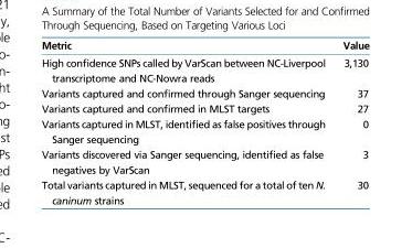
<table><thead><tr><td>Metric</td><td>Value</td></tr></thead><tbody><tr><td>High confidence SNPs called by VarScan between NC-Liverpool transcriptome and NC-Nowra reads</td><td>3,130</td></tr><tr><td>Variants captured and confirmed through Sanger sequencing</td><td>37</td></tr><tr><td>Variants captured and confirmed in MLST targets</td><td>27</td></tr><tr><td>Variants captured in MLST, identified as false positives through Sanger sequencing</td><td>0</td></tr><tr><td>Variants discovered via Sanger sequencing, identified as false negatives by VarScan</td><td>3</td></tr><tr><td>Total variants captured in MLST, sequenced for a total of ten N. caninum strains</td><td>30</td></tr></tbody></table>